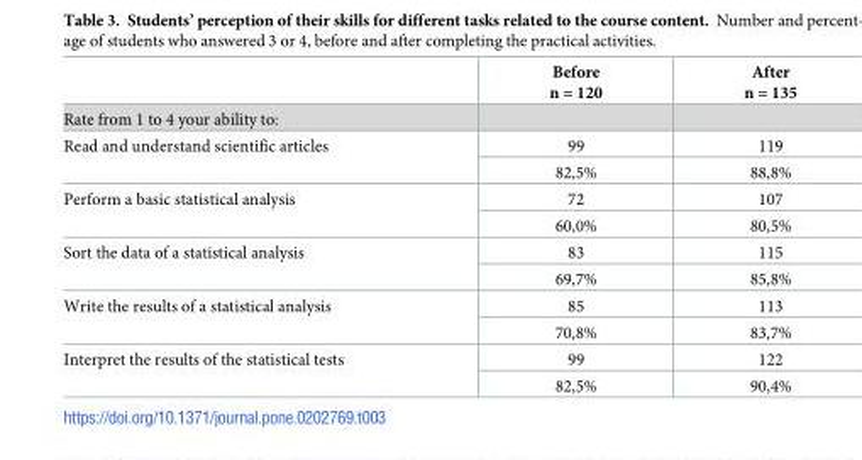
<table><thead><tr><td></td><td>Before n = 120</td><td>After n = 135</td></tr></thead><tbody><tr><td colspan="3">Rate from 1 to 4 your ability to:</td></tr><tr><td rowspan="2">Read and understand scientific articles</td><td>99</td><td>119</td></tr><tr><td>82,5%</td><td>88,8%</td></tr><tr><td rowspan="2">Perform a basic statistical analysis</td><td>72</td><td>107</td></tr><tr><td>60,0%</td><td>80,5%</td></tr><tr><td rowspan="2">Sort the data of a statistical analysis</td><td>83</td><td>115</td></tr><tr><td>69,7%</td><td>85,8%</td></tr><tr><td rowspan="2">Write the results of a statistical analysis</td><td>85</td><td>113</td></tr><tr><td>70,8%</td><td>83,7%</td></tr><tr><td rowspan="2">Interpret the results of the statistical tests</td><td>99</td><td>122</td></tr><tr><td>82,5%</td><td>90,4%</td></tr></tbody></table>